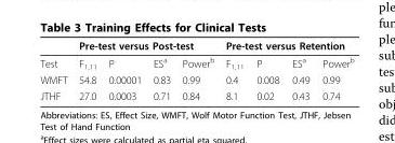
<table><thead><tr><td rowspan="2">Test</td><td colspan="4">Pre-test versus Post-test</td><td colspan="4">Pre-test versus Retention</td></tr><tr><td>F<sub>1,11</sub></td><td>P</td><td>ES<sup>a</sup></td><td>Power<sup>b</sup></td><td>F<sub>1,11</sub></td><td>P</td><td>ES<sup>a</sup></td><td>Power<sup>b</sup></td></tr></thead><tbody><tr><td>WMFT</td><td>54.8</td><td>0.00001</td><td>0.83</td><td>0.99</td><td>0.4</td><td>0.008</td><td>0.49</td><td>0.99</td></tr><tr><td>JTHF</td><td>27.0</td><td>0.0003</td><td>0.71</td><td>0.84</td><td>8.1</td><td>0.02</td><td>0.43</td><td>0.74</td></tr></tbody></table>